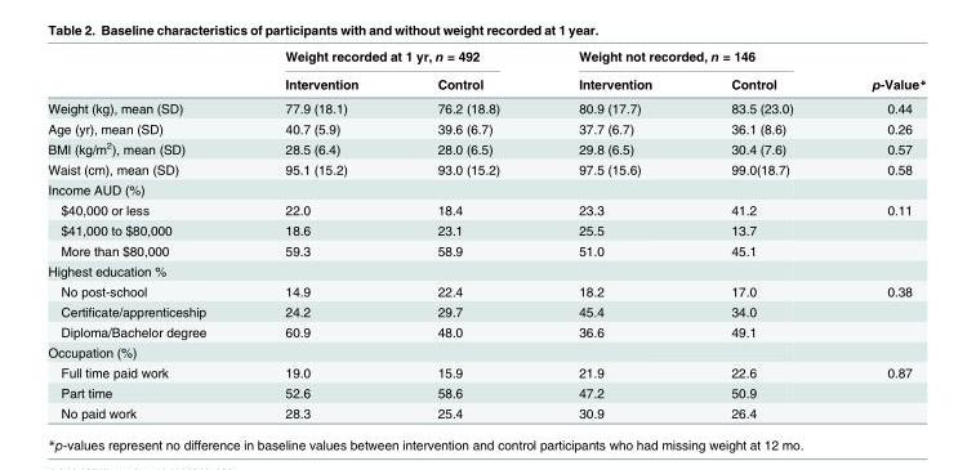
<table><thead><tr><td rowspan="2"></td><td colspan="2">Weight recorded at 1 yr, n = 492</td><td colspan="2">Weight not recorded, n = 146</td><td rowspan="2">p-Value*</td></tr><tr><td>Intervention</td><td>Control</td><td>Intervention</td><td>Control</td></tr></thead><tbody><tr><td>Weight (kg), mean (SD)</td><td>77.9 (18.1)</td><td>76.2 (18.8)</td><td>80.9 (17.7)</td><td>83.5 (23.0)</td><td>0.44</td></tr><tr><td>Age (yr), mean (SD)</td><td>40.7 (5.9)</td><td>39.6 (6.7)</td><td>37.7 (6.7)</td><td>36.1 (8.6)</td><td>0.26</td></tr><tr><td>BMI (kg/m<sup>2</sup>), mean (SD)</td><td>28.5 (6.4)</td><td>28.0 (6.5)</td><td>29.8 (6.5)</td><td>30.4 (7.6)</td><td>0.57</td></tr><tr><td>Waist (cm), mean (SD)</td><td>95.1 (15.2)</td><td>93.0 (15.2)</td><td>97.5 (15.6)</td><td>99.0(18.7)</td><td>0.58</td></tr><tr><td colspan="6">Income AUD (%)</td></tr><tr><td>$40,000 or less</td><td>22.0</td><td>18.4</td><td>23.3</td><td>41.2</td><td>0.11</td></tr><tr><td>$41,000 to $80,000</td><td>18.6</td><td>23.1</td><td>25.5</td><td>13.7</td><td></td></tr><tr><td>More than $80,000</td><td>59.3</td><td>58.9</td><td>51.0</td><td>45.1</td><td></td></tr><tr><td colspan="6">Highest education %</td></tr><tr><td>No post-school</td><td>14.9</td><td>22.4</td><td>18.2</td><td>17.0</td><td>0.38</td></tr><tr><td>Certificate/apprenticeship</td><td>24.2</td><td>29.7</td><td>45.4</td><td>34.0</td><td></td></tr><tr><td>Diploma/Bachelor degree</td><td>60.9</td><td>48.0</td><td>36.6</td><td>49.1</td><td></td></tr><tr><td colspan="6">Occupation (%)</td></tr><tr><td>Full time paid work</td><td>19.0</td><td>15.9</td><td>21.9</td><td>22.6</td><td>0.87</td></tr><tr><td>Part time</td><td>52.6</td><td>58.6</td><td>47.2</td><td>50.9</td><td></td></tr><tr><td>No paid work</td><td>28.3</td><td>25.4</td><td>30.9</td><td>26.4</td><td></td></tr></tbody></table>